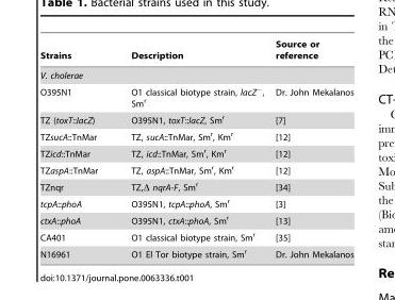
<table><thead><tr><td>Strains</td><td>Description</td><td>Source or reference</td></tr></thead><tbody><tr><td colspan="3">V. cholerae</td></tr><tr><td>O395N1</td><td>O1 classical biotype strain, lacZ<sup>−</sup>, Sm<sup>r</sup></td><td>Dr. John Mekalanos</td></tr><tr><td>TZ (toxT::lacZ)</td><td>O395N1, toxT::lacZ, Sm<sup>r</sup></td><td>[7]</td></tr><tr><td>TZsucA::TnMar</td><td>TZ, sucA::TnMar, Sm<sup>r</sup>, Km<sup>r</sup></td><td>[12]</td></tr><tr><td>TZicd::TnMar</td><td>TZ, icd::TnMar, Sm<sup>r</sup>, Km<sup>r</sup></td><td>[12]</td></tr><tr><td>TZaspA::TnMar</td><td>TZ, aspA::TnMar, Sm<sup>r</sup>, Km<sup>r</sup></td><td>[12]</td></tr><tr><td>TZnqr</td><td>TZ,Δ nqrA-F, Sm<sup>r</sup></td><td>[34]</td></tr><tr><td>tcpA::phoA</td><td>O395N1, tcpA::phoA, Sm<sup>r</sup></td><td>[3]</td></tr><tr><td>ctxA::phoA</td><td>O395N1, ctxA::phoA, Sm<sup>r</sup></td><td>[13]</td></tr><tr><td>CA401</td><td>O1 classical biotype strain, Sm<sup>r</sup></td><td>[35]</td></tr><tr><td>N16961</td><td>O1 El Tor biotype strain, Sm<sup>r</sup></td><td>Dr. John Mekalanos</td></tr></tbody></table>